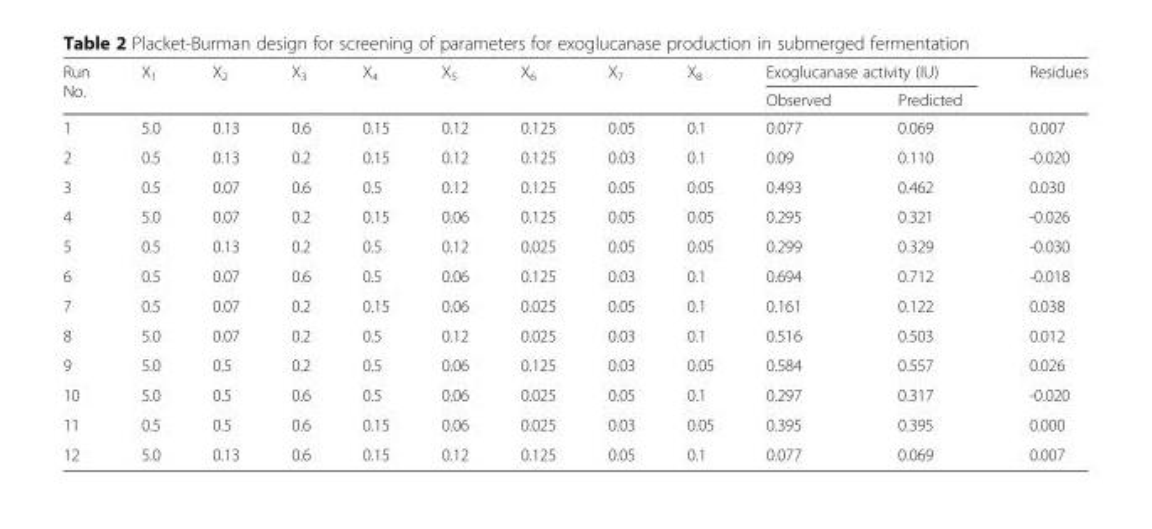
<table><thead><tr><td rowspan="2">Run No.</td><td rowspan="2">X<sub>1</sub></td><td rowspan="2">X<sub>2</sub></td><td rowspan="2">X<sub>3</sub></td><td rowspan="2">X<sub>4</sub></td><td rowspan="2">X<sub>5</sub></td><td rowspan="2">X<sub>6</sub></td><td rowspan="2">X<sub>7</sub></td><td rowspan="2">X<sub>8</sub></td><td colspan="2">Exoglucanase activity (IU)</td><td rowspan="2">Residues</td></tr><tr><td>Observed</td><td>Predicted</td></tr></thead><tbody><tr><td>1</td><td>5.0</td><td>0.13</td><td>0.6</td><td>0.15</td><td>0.12</td><td>0.125</td><td>0.05</td><td>0.1</td><td>0.077</td><td>0.069</td><td>0.007</td></tr><tr><td>2</td><td>0.5</td><td>0.13</td><td>0.2</td><td>0.15</td><td>0.12</td><td>0.125</td><td>0.03</td><td>0.1</td><td>0.09</td><td>0.110</td><td>-0.020</td></tr><tr><td>3</td><td>0.5</td><td>0.07</td><td>0.6</td><td>0.5</td><td>0.12</td><td>0.125</td><td>0.05</td><td>0.05</td><td>0.493</td><td>0.462</td><td>0.030</td></tr><tr><td>4</td><td>5.0</td><td>0.07</td><td>0.2</td><td>0.15</td><td>0.06</td><td>0.125</td><td>0.05</td><td>0.05</td><td>0.295</td><td>0.321</td><td>-0.026</td></tr><tr><td>5</td><td>0.5</td><td>0.13</td><td>0.2</td><td>0.5</td><td>0.12</td><td>0.025</td><td>0.05</td><td>0.05</td><td>0.299</td><td>0.329</td><td>-0.030</td></tr><tr><td>6</td><td>0.5</td><td>0.07</td><td>0.6</td><td>0.5</td><td>0.06</td><td>0.125</td><td>0.03</td><td>0.1</td><td>0.694</td><td>0.712</td><td>-0.018</td></tr><tr><td>7</td><td>0.5</td><td>0.07</td><td>0.2</td><td>0.15</td><td>0.06</td><td>0.025</td><td>0.05</td><td>0.1</td><td>0.161</td><td>0.122</td><td>0.038</td></tr><tr><td>8</td><td>5.0</td><td>0.07</td><td>0.2</td><td>0.5</td><td>0.12</td><td>0.025</td><td>0.03</td><td>0.1</td><td>0.516</td><td>0.503</td><td>0.012</td></tr><tr><td>9</td><td>5.0</td><td>0.5</td><td>0.2</td><td>0.5</td><td>0.06</td><td>0.125</td><td>0.03</td><td>0.05</td><td>0.584</td><td>0.557</td><td>0.026</td></tr><tr><td>10</td><td>5.0</td><td>0.5</td><td>0.6</td><td>0.5</td><td>0.06</td><td>0.025</td><td>0.05</td><td>0.1</td><td>0.297</td><td>0.317</td><td>-0.020</td></tr><tr><td>11</td><td>0.5</td><td>0.5</td><td>0.6</td><td>0.15</td><td>0.06</td><td>0.025</td><td>0.03</td><td>0.05</td><td>0.395</td><td>0.395</td><td>0.000</td></tr><tr><td>12</td><td>5.0</td><td>0.13</td><td>0.6</td><td>0.15</td><td>0.12</td><td>0.125</td><td>0.05</td><td>0.1</td><td>0.077</td><td>0.069</td><td>0.007</td></tr></tbody></table>